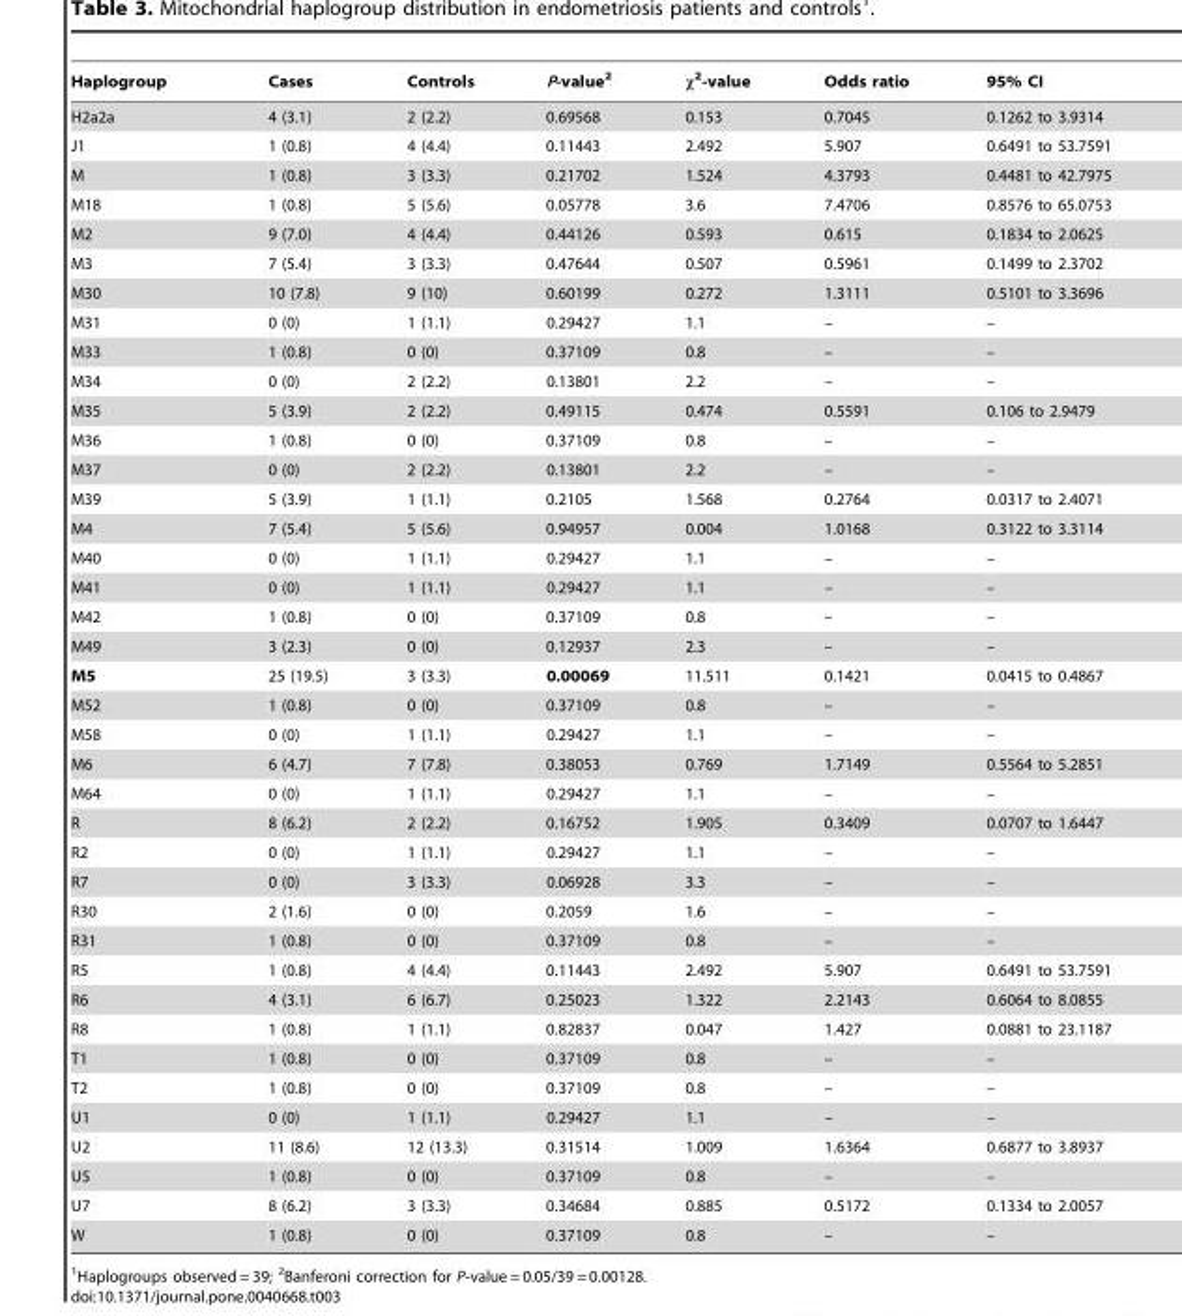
<table><thead><tr><td>Haplogroup</td><td>Cases</td><td>Controls</td><td>P-value<sup>2</sup></td><td>χ<sup>2</sup>-value</td><td>Odds ratio</td><td>95% CI</td></tr></thead><tbody><tr><td>H2a2a</td><td>4 (3.1)</td><td>2 (2.2)</td><td>0.69568</td><td>0.153</td><td>0.7045</td><td>0.1262 to 3.9314</td></tr><tr><td>J1</td><td>1 (0.8)</td><td>4 (4.4)</td><td>0.11443</td><td>2.492</td><td>5.907</td><td>0.6491 to 53.7591</td></tr><tr><td>M</td><td>1 (0.8)</td><td>3 (3.3)</td><td>0.21702</td><td>1.524</td><td>4.3793</td><td>0.4481 to 42.7975</td></tr><tr><td>M18</td><td>1 (0.8)</td><td>5 (5.6)</td><td>0.05778</td><td>3.6</td><td>7.4706</td><td>0.8576 to 65.0753</td></tr><tr><td>M2</td><td>9 (7.0)</td><td>4 (4.4)</td><td>0.44126</td><td>0.593</td><td>0.615</td><td>0.1834 to 2.0625</td></tr><tr><td>M3</td><td>7 (5.4)</td><td>3 (3.3)</td><td>0.47644</td><td>0.507</td><td>0.5961</td><td>0.1499 to 2.3702</td></tr><tr><td>M30</td><td>10 (7.8)</td><td>9 (10)</td><td>0.60199</td><td>0.272</td><td>1.3111</td><td>0.5101 to 3.3696</td></tr><tr><td>M31</td><td>0 (0)</td><td>1 (1.1)</td><td>0.29427</td><td>1.1</td><td>–</td><td>–</td></tr><tr><td>M33</td><td>1 (0.8)</td><td>0 (0)</td><td>0.37109</td><td>0.8</td><td>–</td><td>–</td></tr><tr><td>M34</td><td>0 (0)</td><td>2 (2.2)</td><td>0.13801</td><td>2.2</td><td>–</td><td>–</td></tr><tr><td>M35</td><td>5 (3.9)</td><td>2 (2.2)</td><td>0.49115</td><td>0.474</td><td>0.5591</td><td>0.106 to 2.9479</td></tr><tr><td>M36</td><td>1 (0.8)</td><td>0 (0)</td><td>0.37109</td><td>0.8</td><td>–</td><td>–</td></tr><tr><td>M37</td><td>0 (0)</td><td>2 (2.2)</td><td>0.13801</td><td>2.2</td><td>–</td><td>–</td></tr><tr><td>M39</td><td>5 (3.9)</td><td>1 (1.1)</td><td>0.2105</td><td>1.568</td><td>0.2764</td><td>0.0317 to 2.4071</td></tr><tr><td>M4</td><td>7 (5.4)</td><td>5 (5.6)</td><td>0.94957</td><td>0.004</td><td>1.0168</td><td>0.3122 to 3.3114</td></tr><tr><td>M40</td><td>0 (0)</td><td>1 (1.1)</td><td>0.29427</td><td>1.1</td><td>–</td><td>–</td></tr><tr><td>M41</td><td>0 (0)</td><td>1 (1.1)</td><td>0.29427</td><td>1.1</td><td>–</td><td>–</td></tr><tr><td>M42</td><td>1 (0.8)</td><td>0 (0)</td><td>0.37109</td><td>0.8</td><td>–</td><td>–</td></tr><tr><td>M49</td><td>3 (2.3)</td><td>0 (0)</td><td>0.12937</td><td>2.3</td><td>–</td><td>–</td></tr><tr><td>M5</td><td>25 (19.5)</td><td>3 (3.3)</td><td>0.00069</td><td>11.511</td><td>0.1421</td><td>0.0415 to 0.4867</td></tr><tr><td>M52</td><td>1 (0.8)</td><td>0 (0)</td><td>0.37109</td><td>0.8</td><td>–</td><td>–</td></tr><tr><td>M58</td><td>0 (0)</td><td>1 (1.1)</td><td>0.29427</td><td>1.1</td><td>–</td><td>–</td></tr><tr><td>M6</td><td>6 (4.7)</td><td>7 (7.8)</td><td>0.38053</td><td>0.769</td><td>1.7149</td><td>0.5564 to 5.2851</td></tr><tr><td>M64</td><td>0 (0)</td><td>1 (1.1)</td><td>0.29427</td><td>1.1</td><td>–</td><td>–</td></tr><tr><td>R</td><td>8 (6.2)</td><td>2 (2.2)</td><td>0.16752</td><td>1.905</td><td>0.3409</td><td>0.0707 to 1.6447</td></tr><tr><td>R2</td><td>0 (0)</td><td>1 (1.1)</td><td>0.29427</td><td>1.1</td><td>–</td><td>–</td></tr><tr><td>R7</td><td>0 (0)</td><td>3 (3.3)</td><td>0.06928</td><td>3.3</td><td>–</td><td>–</td></tr><tr><td>R30</td><td>2 (1.6)</td><td>0 (0)</td><td>0.2059</td><td>1.6</td><td>–</td><td>–</td></tr><tr><td>R31</td><td>1 (0.8)</td><td>0 (0)</td><td>0.37109</td><td>0.8</td><td>–</td><td>–</td></tr><tr><td>R5</td><td>1 (0.8)</td><td>4 (4.4)</td><td>0.11443</td><td>2.492</td><td>5.907</td><td>0.6491 to 53.7591</td></tr><tr><td>R6</td><td>4 (3.1)</td><td>6 (6.7)</td><td>0.25023</td><td>1.322</td><td>2.2143</td><td>0.6064 to 8.0855</td></tr><tr><td>R8</td><td>1 (0.8)</td><td>1 (1.1)</td><td>0.82837</td><td>0.047</td><td>1.427</td><td>0.0881 to 23.1187</td></tr><tr><td>T1</td><td>1 (0.8)</td><td>0 (0)</td><td>0.37109</td><td>0.8</td><td>–</td><td>–</td></tr><tr><td>T2</td><td>1 (0.8)</td><td>0 (0)</td><td>0.37109</td><td>0.8</td><td>–</td><td>–</td></tr><tr><td>U1</td><td>0 (0)</td><td>1 (1.1)</td><td>0.29427</td><td>1.1</td><td>–</td><td>–</td></tr><tr><td>U2</td><td>11 (8.6)</td><td>12 (13.3)</td><td>0.31514</td><td>1.009</td><td>1.6364</td><td>0.6877 to 3.8937</td></tr><tr><td>U5</td><td>1 (0.8)</td><td>0 (0)</td><td>0.37109</td><td>0.8</td><td>–</td><td>–</td></tr><tr><td>U7</td><td>8 (6.2)</td><td>3 (3.3)</td><td>0.34684</td><td>0.885</td><td>0.5172</td><td>0.1334 to 2.0057</td></tr><tr><td>W</td><td>1 (0.8)</td><td>0 (0)</td><td>0.37109</td><td>0.8</td><td>–</td><td>–</td></tr></tbody></table>